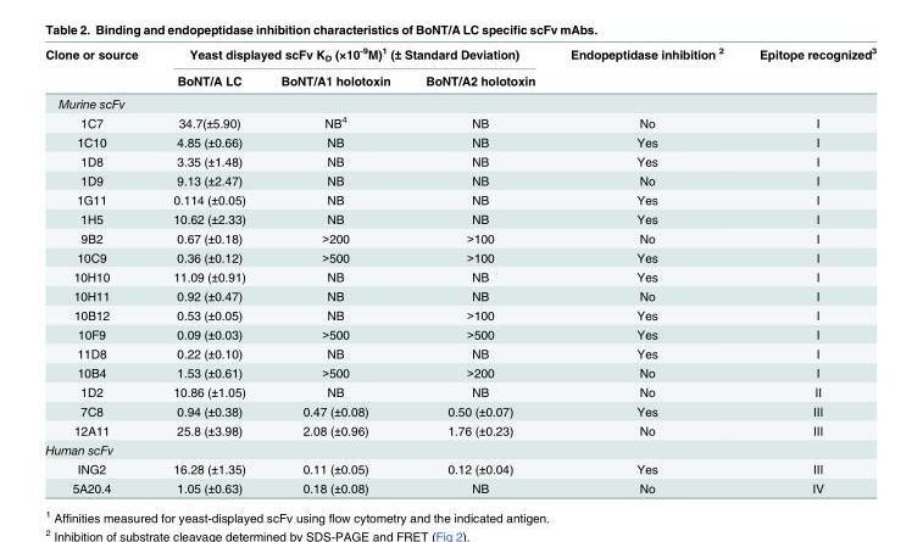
<table><thead><tr><td rowspan="2">Clone or source</td><td colspan="3">Yeast displayed scFv K<sub>D</sub> (×10<sup>-9</sup>M)<sup>1</sup> (± Standard Deviation)</td><td rowspan="2">Endopeptidase inhibition <sup>2</sup></td><td rowspan="2">Epitope recognized<sup>3</sup></td></tr><tr><td>BoNT/A LC</td><td>BoNT/A1 holotoxin</td><td>BoNT/A2 holotoxin</td></tr></thead><tbody><tr><td colspan="6">Murine scFv</td></tr><tr><td>1C7</td><td>34.7(±5.90)</td><td>NB<sup>4</sup></td><td>NB</td><td>No</td><td>I</td></tr><tr><td>1C10</td><td>4.85 (±0.66)</td><td>NB</td><td>NB</td><td>Yes</td><td>I</td></tr><tr><td>1D8</td><td>3.35 (±1.48)</td><td>NB</td><td>NB</td><td>Yes</td><td>I</td></tr><tr><td>1D9</td><td>9.13 (±2.47)</td><td>NB</td><td>NB</td><td>No</td><td>I</td></tr><tr><td>1G11</td><td>0.114 (±0.05)</td><td>NB</td><td>NB</td><td>Yes</td><td>I</td></tr><tr><td>1H5</td><td>10.62 (±2.33)</td><td>NB</td><td>NB</td><td>Yes</td><td>I</td></tr><tr><td>9B2</td><td>0.67 (±0.18)</td><td>&gt;200</td><td>&gt;100</td><td>No</td><td>I</td></tr><tr><td>10C9</td><td>0.36 (±0.12)</td><td>&gt;500</td><td>&gt;100</td><td>Yes</td><td>I</td></tr><tr><td>10H10</td><td>11.09 (±0.91)</td><td>NB</td><td>NB</td><td>Yes</td><td>I</td></tr><tr><td>10H11</td><td>0.92 (±0.47)</td><td>NB</td><td>NB</td><td>No</td><td>I</td></tr><tr><td>10B12</td><td>0.53 (±0.05)</td><td>NB</td><td>&gt;100</td><td>Yes</td><td>I</td></tr><tr><td>10F9</td><td>0.09 (±0.03)</td><td>&gt;500</td><td>&gt;500</td><td>Yes</td><td>I</td></tr><tr><td>11D8</td><td>0.22 (±0.10)</td><td>NB</td><td>NB</td><td>Yes</td><td>I</td></tr><tr><td>10B4</td><td>1.53 (±0.61)</td><td>&gt;500</td><td>&gt;200</td><td>No</td><td>I</td></tr><tr><td>1D2</td><td>10.86 (±1.05)</td><td>NB</td><td>NB</td><td>No</td><td>II</td></tr><tr><td>7C8</td><td>0.94 (±0.38)</td><td>0.47 (±0.08)</td><td>0.50 (±0.07)</td><td>Yes</td><td>III</td></tr><tr><td>12A11</td><td>25.8 (±3.98)</td><td>2.08 (±0.96)</td><td>1.76 (±0.23)</td><td>No</td><td>III</td></tr><tr><td colspan="6">Human scFv</td></tr><tr><td>ING2</td><td>16.28 (±1.35)</td><td>0.11 (±0.05)</td><td>0.12 (±0.04)</td><td>Yes</td><td>III</td></tr><tr><td>5A20.4</td><td>1.05 (±0.63)</td><td>0.18 (±0.08)</td><td>NB</td><td>No</td><td>IV</td></tr></tbody></table>